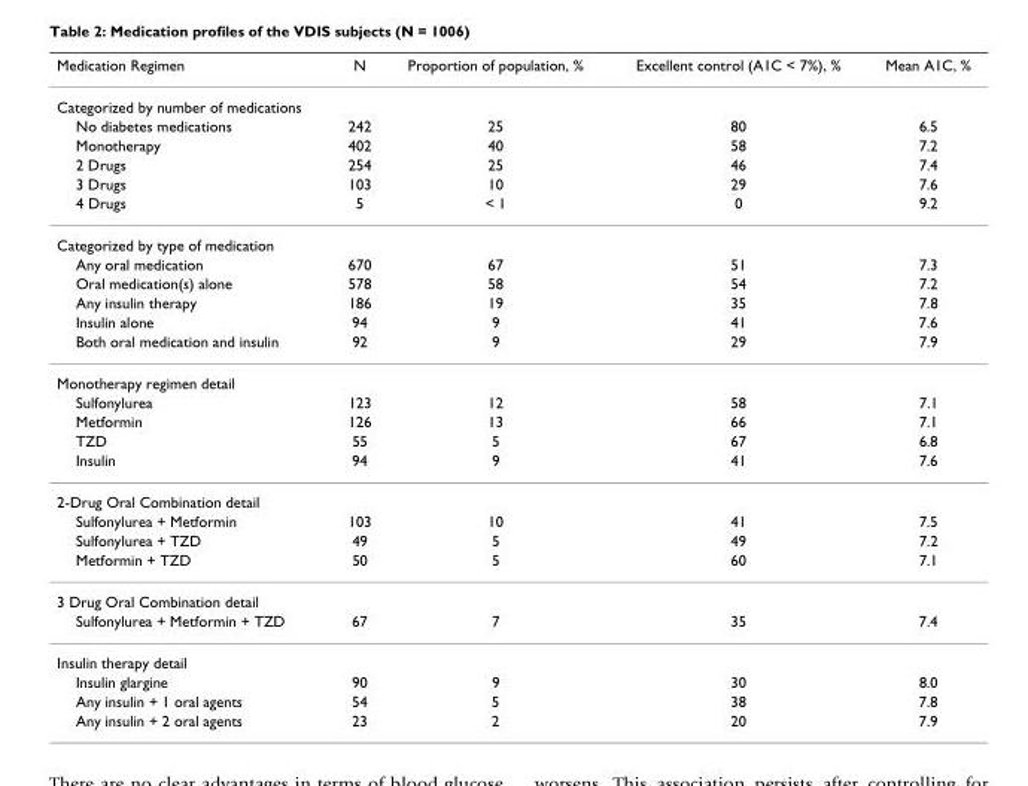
<table><thead><tr><td>Medication Regimen</td><td>N</td><td>Proportion of population, %</td><td>Excellent control (A1C &lt; 7%), %</td><td>Mean A1C, %</td></tr></thead><tbody><tr><td colspan="5">Categorized by number of medications</td></tr><tr><td>No diabetes medications</td><td>242</td><td>25</td><td>80</td><td>6.5</td></tr><tr><td>Monotherapy</td><td>402</td><td>40</td><td>58</td><td>7.2</td></tr><tr><td>2 Drugs</td><td>254</td><td>25</td><td>46</td><td>7.4</td></tr><tr><td>3 Drugs</td><td>103</td><td>10</td><td>29</td><td>7.6</td></tr><tr><td>4 Drugs</td><td>5</td><td>&lt; 1</td><td>0</td><td>9.2</td></tr><tr><td colspan="5">Categorized by type of medication</td></tr><tr><td>Any oral medication</td><td>670</td><td>67</td><td>51</td><td>7.3</td></tr><tr><td>Oral medication(s) alone</td><td>578</td><td>58</td><td>54</td><td>7.2</td></tr><tr><td>Any insulin therapy</td><td>186</td><td>19</td><td>35</td><td>7.8</td></tr><tr><td>Insulin alone</td><td>94</td><td>9</td><td>41</td><td>7.6</td></tr><tr><td>Both oral medication and insulin</td><td>92</td><td>9</td><td>29</td><td>7.9</td></tr><tr><td colspan="5">Monotherapy regimen detail</td></tr><tr><td>Sulfonylurea</td><td>123</td><td>12</td><td>58</td><td>7.1</td></tr><tr><td>Metformin</td><td>126</td><td>13</td><td>66</td><td>7.1</td></tr><tr><td>TZD</td><td>55</td><td>5</td><td>67</td><td>6.8</td></tr><tr><td>Insulin</td><td>94</td><td>9</td><td>41</td><td>7.6</td></tr><tr><td colspan="5">2-Drug Oral Combination detail</td></tr><tr><td>Sulfonylurea + Metformin</td><td>103</td><td>10</td><td>41</td><td>7.5</td></tr><tr><td>Sulfonylurea + TZD</td><td>49</td><td>5</td><td>49</td><td>7.2</td></tr><tr><td>Metformin + TZD</td><td>50</td><td>5</td><td>60</td><td>7.1</td></tr><tr><td colspan="5">3 Drug Oral Combination detail</td></tr><tr><td>Sulfonylurea + Metformin + TZD</td><td>67</td><td>7</td><td>35</td><td>7.4</td></tr><tr><td colspan="5">Insulin therapy detail</td></tr><tr><td>Insulin glargine</td><td>90</td><td>9</td><td>30</td><td>8.0</td></tr><tr><td>Any insulin + 1 oral agents</td><td>54</td><td>5</td><td>38</td><td>7.8</td></tr><tr><td>Any insulin + 2 oral agents</td><td>23</td><td>2</td><td>20</td><td>7.9</td></tr></tbody></table>